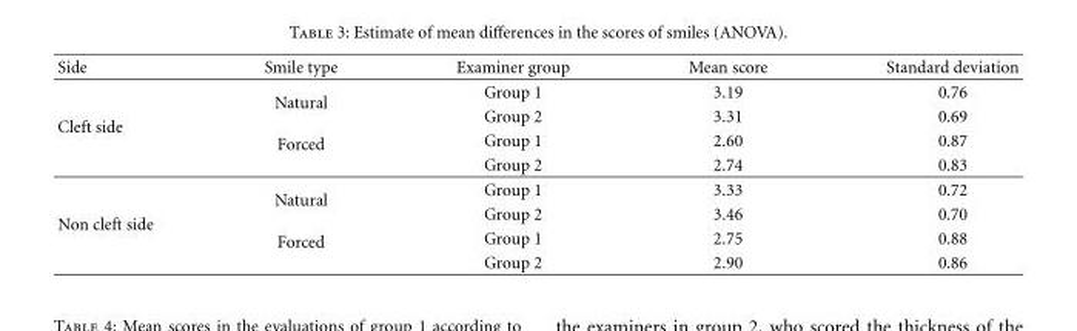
<table><thead><tr><td>Side</td><td>Smile type</td><td>Examiner group</td><td>Mean score</td><td>Standard deviation</td></tr></thead><tbody><tr><td rowspan="4">Cleft side</td><td rowspan="2">Natural</td><td>Group 1</td><td>3.19</td><td>0.76</td></tr><tr><td>Group 2</td><td>3.31</td><td>0.69</td></tr><tr><td rowspan="2">Forced</td><td>Group 1</td><td>2.60</td><td>0.87</td></tr><tr><td>Group 2</td><td>2.74</td><td>0.83</td></tr><tr><td rowspan="4">Non cleft side</td><td rowspan="2">Natural</td><td>Group 1</td><td>3.33</td><td>0.72</td></tr><tr><td>Group 2</td><td>3.46</td><td>0.70</td></tr><tr><td rowspan="2">Forced</td><td>Group 1</td><td>2.75</td><td>0.88</td></tr><tr><td>Group 2</td><td>2.90</td><td>0.86</td></tr></tbody></table>